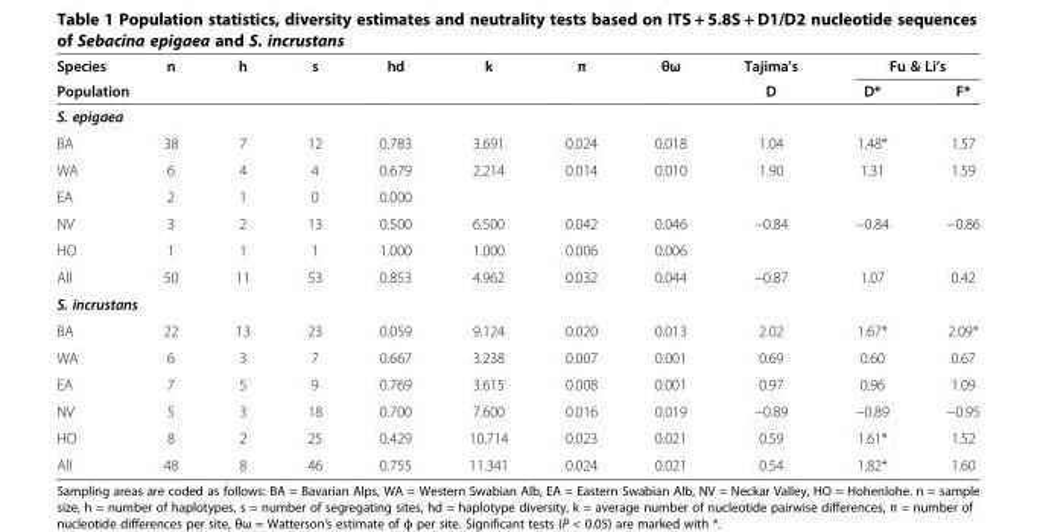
<table><thead><tr><td>Species</td><td>n</td><td>h</td><td rowspan="2">s</td><td rowspan="2">hd</td><td rowspan="2">k</td><td rowspan="2">π</td><td rowspan="2">θω</td><td rowspan="2">Tajima’s D</td><td colspan="2">Fu &amp; Li’s</td></tr><tr><td colspan="3">Population</td><td>D*</td><td>F*</td></tr></thead><tbody><tr><td colspan="11">S. epigaea</td></tr><tr><td>BA</td><td>38</td><td>7</td><td>12</td><td>0.783</td><td>3.691</td><td>0.024</td><td>0.018</td><td>1.04</td><td>1.48*</td><td>1.57</td></tr><tr><td>WA</td><td>6</td><td>4</td><td>4</td><td>0.679</td><td>2.214</td><td>0.014</td><td>0.010</td><td>1.90</td><td>1.31</td><td>1.59</td></tr><tr><td>EA</td><td>2</td><td>1</td><td>0</td><td>0.000</td><td></td><td></td><td></td><td></td><td></td><td></td></tr><tr><td>NV</td><td>3</td><td>2</td><td>13</td><td>0.500</td><td>6.500</td><td>0.042</td><td>0.046</td><td>−0.84</td><td>−0.84</td><td>−0.86</td></tr><tr><td>HO</td><td>1</td><td>1</td><td>1</td><td>1.000</td><td>1.000</td><td>0.006</td><td>0.006</td><td></td><td></td><td></td></tr><tr><td>All</td><td>50</td><td>11</td><td>53</td><td>0.853</td><td>4.962</td><td>0.032</td><td>0.044</td><td>−0.87</td><td>1.07</td><td>0.42</td></tr><tr><td colspan="11">S. incrustans</td></tr><tr><td>BA</td><td>22</td><td>13</td><td>23</td><td>0.059</td><td>9.124</td><td>0.020</td><td>0.013</td><td>2.02</td><td>1.67*</td><td>2.09*</td></tr><tr><td>WA</td><td>6</td><td>3</td><td>7</td><td>0.667</td><td>3.238</td><td>0.007</td><td>0.001</td><td>0.69</td><td>0.60</td><td>0.67</td></tr><tr><td>EA</td><td>7</td><td>5</td><td>9</td><td>0.769</td><td>3.615</td><td>0.008</td><td>0.001</td><td>0.97</td><td>0.96</td><td>1.09</td></tr><tr><td>NV</td><td>5</td><td>3</td><td>18</td><td>0.700</td><td>7.600</td><td>0.016</td><td>0.019</td><td>−0.89</td><td>−0.89</td><td>−0.95</td></tr><tr><td>HO</td><td>8</td><td>2</td><td>25</td><td>0.429</td><td>10.714</td><td>0.023</td><td>0.021</td><td>0.59</td><td>1.61*</td><td>1.52</td></tr><tr><td>All</td><td>48</td><td>8</td><td>46</td><td>0.755</td><td>11.341</td><td>0.024</td><td>0.021</td><td>0.54</td><td>1.82*</td><td>1.60</td></tr></tbody></table>